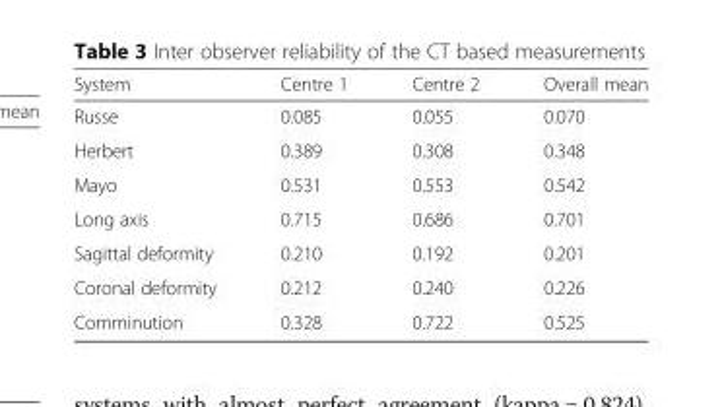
<table><thead><tr><td>System</td><td>Centre 1</td><td>Centre 2</td><td>Overall mean</td></tr></thead><tbody><tr><td>Russe</td><td>0.085</td><td>0.055</td><td>0.070</td></tr><tr><td>Herbert</td><td>0.389</td><td>0.308</td><td>0.348</td></tr><tr><td>Mayo</td><td>0.531</td><td>0.553</td><td>0.542</td></tr><tr><td>Long axis</td><td>0.715</td><td>0.686</td><td>0.701</td></tr><tr><td>Sagittal deformity</td><td>0.210</td><td>0.192</td><td>0.201</td></tr><tr><td>Coronal deformity</td><td>0.212</td><td>0.240</td><td>0.226</td></tr><tr><td>Comminution</td><td>0.328</td><td>0.722</td><td>0.525</td></tr></tbody></table>